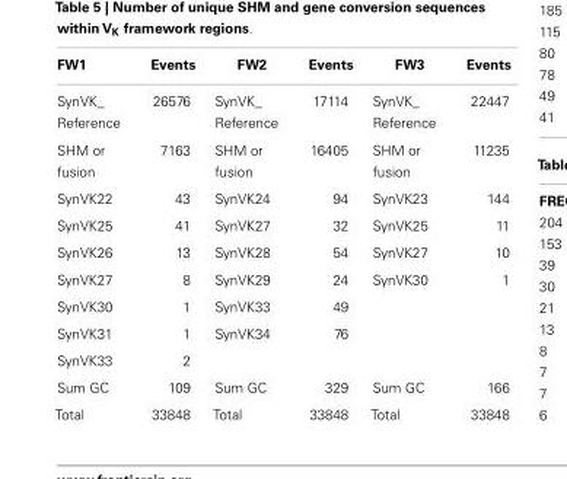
<table><thead><tr><td>FW1</td><td>Events</td><td>FW2</td><td>Events</td><td>FW3</td><td>Events</td></tr></thead><tbody><tr><td>SynVK_ Reference</td><td>26576</td><td>SynVK_ Reference</td><td>17114</td><td>SynVK_ Reference</td><td>22447</td></tr><tr><td>SHM or fusion</td><td>7163</td><td>SHM or fusion</td><td>16405</td><td>SHM or fusion</td><td>11235</td></tr><tr><td>SynVK22</td><td>43</td><td>SynVK24</td><td>94</td><td>SynVK23</td><td>144</td></tr><tr><td>SynVK25</td><td>41</td><td>SynVK27</td><td>32</td><td>SynVK25</td><td>11</td></tr><tr><td>SynVK26</td><td>13</td><td>SynVK28</td><td>54</td><td>SynVK27</td><td>10</td></tr><tr><td>SynVK27</td><td>8</td><td>SynVK29</td><td>24</td><td>SynVK30</td><td>1</td></tr><tr><td>SynVK30</td><td>1</td><td>SynVK33</td><td>49</td><td></td><td></td></tr><tr><td>SynVK31</td><td>1</td><td>SynVK34</td><td>76</td><td></td><td></td></tr><tr><td>SynVK33</td><td>2</td><td></td><td></td><td></td><td></td></tr><tr><td>Sum GC</td><td>109</td><td>Sum GC</td><td>329</td><td>Sum GC</td><td>166</td></tr><tr><td>Total</td><td>33848</td><td>Total</td><td>33848</td><td>Total</td><td>33848</td></tr></tbody></table>